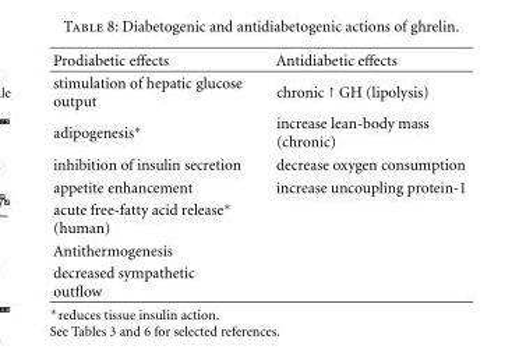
<table><thead><tr><td>Prodiabetic effects</td><td>Antidiabetic effects</td></tr></thead><tbody><tr><td>stimulation of hepatic glucose output</td><td>chronic ↑ GH (lipolysis)</td></tr><tr><td>adipogenesis∗</td><td>increase lean-body mass (chronic)</td></tr><tr><td>inhibition of insulin secretion</td><td>decrease oxygen consumption</td></tr><tr><td>appetite enhancement</td><td>increase uncoupling protein-1</td></tr><tr><td colspan="2">acute free-fatty acid release∗ (human)</td></tr><tr><td colspan="2">Antithermogenesis</td></tr><tr><td>decreased sympathetic outflow</td><td></td></tr></tbody></table>